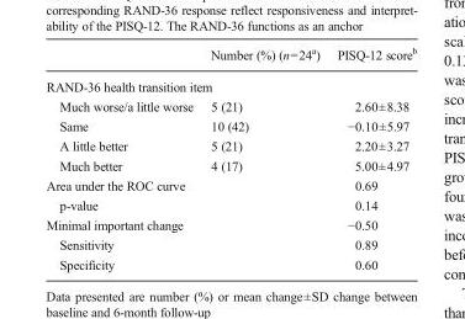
<table><thead><tr><td></td><td>Number (%) (n=24<sup>a</sup>)</td><td>PISQ-12 score<sup>b</sup></td></tr></thead><tbody><tr><td colspan="3">RAND-36 health transition item</td></tr><tr><td>Much worse/a little worse</td><td>5 (21)</td><td>2.60±8.38</td></tr><tr><td>Same</td><td>10 (42)</td><td>−0.10±5.97</td></tr><tr><td>A little better</td><td>5 (21)</td><td>2.20±3.27</td></tr><tr><td>Much better</td><td>4 (17)</td><td>5.00±4.97</td></tr><tr><td>Area under the ROC curve</td><td></td><td>0.69</td></tr><tr><td>p-value</td><td></td><td>0.14</td></tr><tr><td>Minimal important change</td><td></td><td>−0.50</td></tr><tr><td>Sensitivity</td><td></td><td>0.89</td></tr><tr><td>Specificity</td><td></td><td>0.60</td></tr></tbody></table>